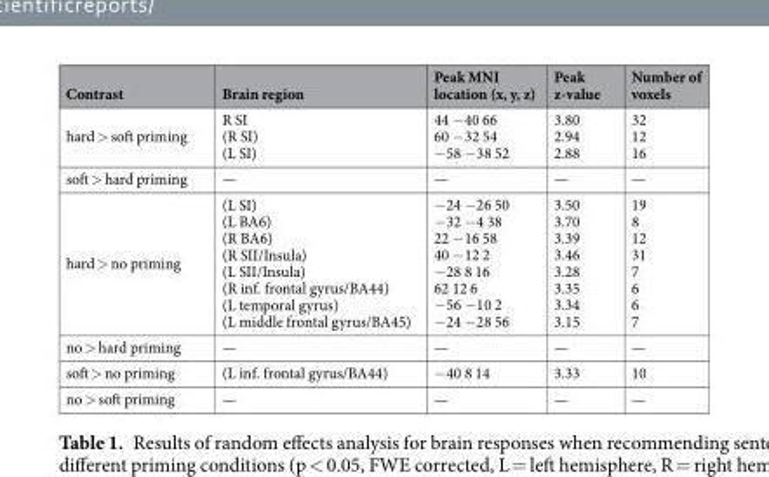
<table><thead><tr><td>Contrast</td><td>Brain region</td><td>Peak MNI location (x, y, z)</td><td>Peak z-value</td><td>Number of voxels</td></tr></thead><tbody><tr><td>hard &gt; soft priming</td><td>R SI (R SI) (L SI)</td><td>44 −40 66 60 −32 54 −58 −38 52</td><td>3.80 2.94 2.88</td><td>32 12 16</td></tr><tr><td>soft &gt; hard priming</td><td>—</td><td>—</td><td>—</td><td>—</td></tr><tr><td>hard &gt; no priming</td><td>(L SI) (L BA6) (R BA6) (R SII/Insula) (L SII/Insula) (R inf. frontal gyrus/BA44) (L temporal gyrus) (L middle frontal gyrus/BA45)</td><td>−24 −26 50 −32 −4 38 22 −16 58 40 −12 2 −28 8 16 62 12 6 −56 −10 2 −24 −28 56</td><td>3.50 3.70 3.39 3.46 3.28 3.35 3.34 3.15</td><td>19 8 12 31 7 6 6 7</td></tr><tr><td>no &gt; hard priming</td><td>—</td><td>—</td><td>—</td><td>—</td></tr><tr><td>soft &gt; no priming</td><td>(L inf. frontal gyrus/BA44)</td><td>−40 8 14</td><td>3.33</td><td>10</td></tr><tr><td>no &gt; soft priming</td><td>—</td><td>—</td><td>—</td><td>—</td></tr></tbody></table>